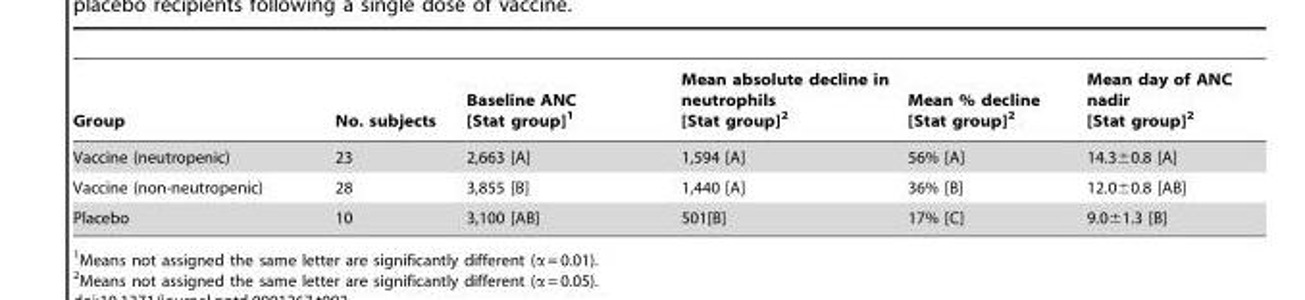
<table><thead><tr><td>Group</td><td>No. subjects</td><td>Baseline ANC [Stat group]<sup>1</sup></td><td>Mean absolute decline in neutrophils [Stat group]<sup>2</sup></td><td>Mean % decline [Stat group]<sup>2</sup></td><td>Mean day of ANC nadir [Stat group]<sup>2</sup></td></tr></thead><tbody><tr><td>Vaccine (neutropenic)</td><td>23</td><td>2,663 [A]</td><td>1,594 [A]</td><td>56% [A]</td><td>14.3±0.8 [A]</td></tr><tr><td>Vaccine (non-neutropenic)</td><td>28</td><td>3,855 [B]</td><td>1,440 [A]</td><td>36% [B]</td><td>12.0±0.8 [AB]</td></tr><tr><td>Placebo</td><td>10</td><td>3,100 [AB]</td><td>501[B]</td><td>17% [C]</td><td>9.0±1.3 [B]</td></tr></tbody></table>